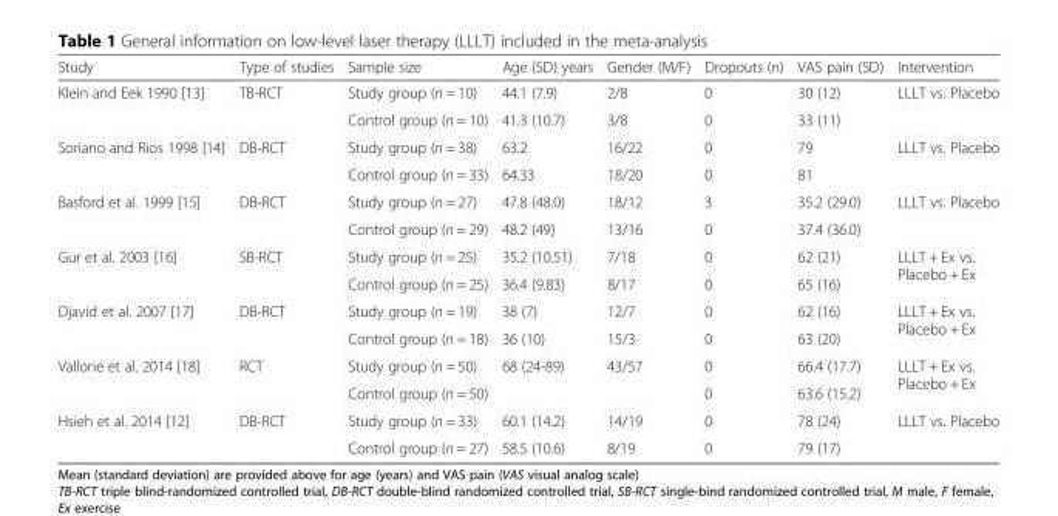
<table><thead><tr><td>Study</td><td>Type of studies</td><td>Sample size</td><td>Age (SD) years</td><td>Gender (M/F)</td><td>Dropouts (n)</td><td>VAS pain (SD)</td><td>Intervention</td></tr></thead><tbody><tr><td rowspan="2">Klein and Eek 1990 [13]</td><td rowspan="2">TB-RCT</td><td>Study group (n = 10)</td><td>44.1 (7.9)</td><td>2/8</td><td>0</td><td>30 (12)</td><td rowspan="2">LLLT vs. Placebo</td></tr><tr><td>Control group (n = 10)</td><td>41.3 (10.7)</td><td>3/8</td><td>0</td><td>33 (11)</td></tr><tr><td rowspan="2">Soriano and Rios 1998 [14]</td><td rowspan="2">DB-RCT</td><td>Study group (n = 38)</td><td>63.2</td><td>16/22</td><td>0</td><td>79</td><td rowspan="2">LLLT vs. Placebo</td></tr><tr><td>Control group (n = 33)</td><td>64.33</td><td>18/20</td><td>0</td><td>81</td></tr><tr><td rowspan="2">Basford et al. 1999 [15]</td><td rowspan="2">DB-RCT</td><td>Study group (n = 27)</td><td>47.8 (48.0)</td><td>18/12</td><td>3</td><td>35.2 (29.0)</td><td rowspan="2">LLLT vs. Placebo</td></tr><tr><td>Control group (n = 29)</td><td>48.2 (49)</td><td>13/16</td><td>0</td><td>37.4 (36.0)</td></tr><tr><td rowspan="2">Gur et al. 2003 [16]</td><td rowspan="2">SB-RCT</td><td>Study group (n = 25)</td><td>35.2 (10.51)</td><td>7/18</td><td>0</td><td>62 (21)</td><td rowspan="2">LLLT + Ex vs. Placebo + Ex</td></tr><tr><td>Control group (n = 25)</td><td>36.4 (9.83)</td><td>8/17</td><td>0</td><td>65 (16)</td></tr><tr><td rowspan="2">Djavid et al. 2007 [17]</td><td rowspan="2">DB-RCT</td><td>Study group (n = 19)</td><td>38 (7)</td><td>12/7</td><td>0</td><td>62 (16)</td><td rowspan="2">LLLT + Ex vs. Placebo + Ex</td></tr><tr><td>Control group (n = 18)</td><td>36 (10)</td><td>15/3</td><td>0</td><td>63 (20)</td></tr><tr><td rowspan="2">Vallone et al. 2014 [18]</td><td rowspan="2">RCT</td><td>Study group (n = 50)</td><td rowspan="2">68 (24-89)</td><td rowspan="2">43/57</td><td>0</td><td>66.4 (17.7)</td><td rowspan="2">LLLT + Ex vs. Placebo + Ex</td></tr><tr><td>Control group (n = 50)</td><td>0</td><td>63.6 (15.2)</td></tr><tr><td rowspan="2">Hsieh et al. 2014 [12]</td><td rowspan="2">DB-RCT</td><td>Study group (n = 33)</td><td>60.1 (14.2)</td><td>14/19</td><td>0</td><td>78 (24)</td><td rowspan="2">LLLT vs. Placebo</td></tr><tr><td>Control group (n = 27)</td><td>58.5 (10.6)</td><td>8/19</td><td>0</td><td>79 (17)</td></tr></tbody></table>